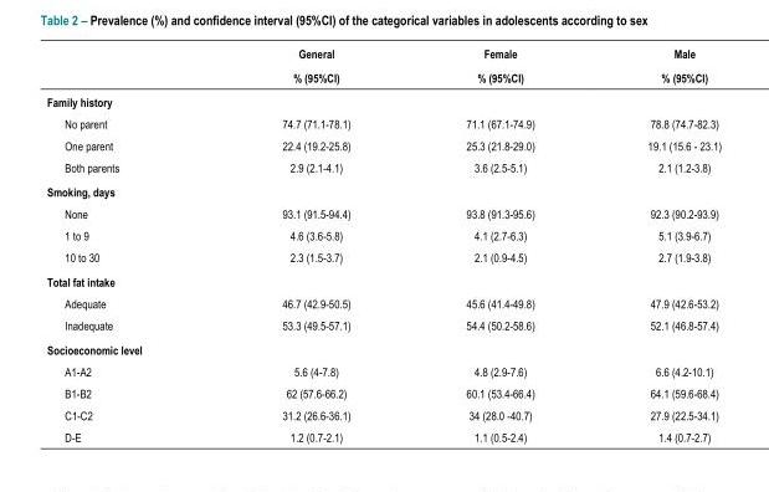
<table><thead><tr><td rowspan="2"></td><td rowspan="2">General % (95%CI)</td><td rowspan="2">Female % (95%CI)</td><td rowspan="2">Male % (95%CI)</td></tr><tr></tr></thead><tbody><tr><td colspan="4">Family history</td></tr><tr><td>No parent</td><td>74.7 (71.1-78.1)</td><td>71.1 (67.1-74.9)</td><td>78.8 (74.7-82.3)</td></tr><tr><td>One parent</td><td>22.4 (19.2-25.8)</td><td>25.3 (21.8-29.0)</td><td>19.1 (15.6 - 23.1)</td></tr><tr><td>Both parents</td><td>2.9 (2.1-4.1)</td><td>3.6 (2.5-5.1)</td><td>2.1 (1.2-3.8)</td></tr><tr><td colspan="4">Smoking, days</td></tr><tr><td>None</td><td>93.1 (91.5-94.4)</td><td>93.8 (91.3-95.6)</td><td>92.3 (90.2-93.9)</td></tr><tr><td>1 to 9</td><td>4.6 (3.6-5.8)</td><td>4.1 (2.7-6.3)</td><td>5.1 (3.9-6.7)</td></tr><tr><td>10 to 30</td><td>2.3 (1.5-3.7)</td><td>2.1 (0.9-4.5)</td><td>2.7 (1.9-3.8)</td></tr><tr><td colspan="4">Total fat intake</td></tr><tr><td>Adequate</td><td>46.7 (42.9-50.5)</td><td>45.6 (41.4-49.8)</td><td>47.9 (42.6-53.2)</td></tr><tr><td>Inadequate</td><td>53.3 (49.5-57.1)</td><td>54.4 (50.2-58.6)</td><td>52.1 (46.8-57.4)</td></tr><tr><td colspan="4">Socioeconomic level</td></tr><tr><td>A1-A2</td><td>5.6 (4-7.8)</td><td>4.8 (2.9-7.6)</td><td>6.6 (4.2-10.1)</td></tr><tr><td>B1-B2</td><td>62 (57.6-66.2)</td><td>60.1 (53.4-66.4)</td><td>64.1 (59.6-68.4)</td></tr><tr><td>C1-C2</td><td>31.2 (26.6-36.1)</td><td>34 (28.0 -40.7)</td><td>27.9 (22.5-34.1)</td></tr><tr><td>D-E</td><td>1.2 (0.7-2.1)</td><td>1.1 (0.5-2.4)</td><td>1.4 (0.7-2.7)</td></tr></tbody></table>